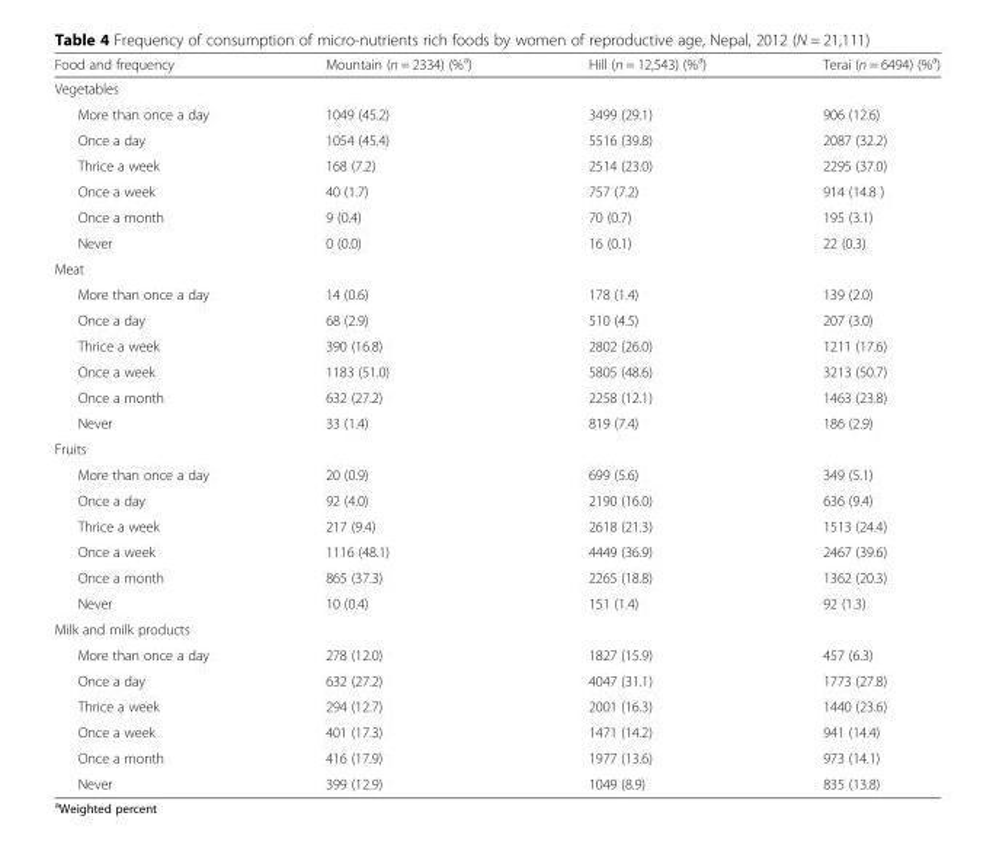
<table><thead><tr><td>Food and frequency</td><td>Mountain (n = 2334) (%<sup>a</sup>)</td><td>Hill (n = 12,543) (%<sup>a</sup>)</td><td>Terai (n = 6494) (%<sup>a</sup>)</td></tr></thead><tbody><tr><td colspan="4">Vegetables</td></tr><tr><td>More than once a day</td><td>1049 (45.2)</td><td>3499 (29.1)</td><td>906 (12.6)</td></tr><tr><td>Once a day</td><td>1054 (45.4)</td><td>5516 (39.8)</td><td>2087 (32.2)</td></tr><tr><td>Thrice a week</td><td>168 (7.2)</td><td>2514 (23.0)</td><td>2295 (37.0)</td></tr><tr><td>Once a week</td><td>40 (1.7)</td><td>757 (7.2)</td><td>914 (14.8 )</td></tr><tr><td>Once a month</td><td>9 (0.4)</td><td>70 (0.7)</td><td>195 (3.1)</td></tr><tr><td>Never</td><td>0 (0.0)</td><td>16 (0.1)</td><td>22 (0.3)</td></tr><tr><td colspan="4">Meat</td></tr><tr><td>More than once a day</td><td>14 (0.6)</td><td>178 (1.4)</td><td>139 (2.0)</td></tr><tr><td>Once a day</td><td>68 (2.9)</td><td>510 (4.5)</td><td>207 (3.0)</td></tr><tr><td>Thrice a week</td><td>390 (16.8)</td><td>2802 (26.0)</td><td>1211 (17.6)</td></tr><tr><td>Once a week</td><td>1183 (51.0)</td><td>5805 (48.6)</td><td>3213 (50.7)</td></tr><tr><td>Once a month</td><td>632 (27.2)</td><td>2258 (12.1)</td><td>1463 (23.8)</td></tr><tr><td>Never</td><td>33 (1.4)</td><td>819 (7.4)</td><td>186 (2.9)</td></tr><tr><td colspan="4">Fruits</td></tr><tr><td>More than once a day</td><td>20 (0.9)</td><td>699 (5.6)</td><td>349 (5.1)</td></tr><tr><td>Once a day</td><td>92 (4.0)</td><td>2190 (16.0)</td><td>636 (9.4)</td></tr><tr><td>Thrice a week</td><td>217 (9.4)</td><td>2618 (21.3)</td><td>1513 (24.4)</td></tr><tr><td>Once a week</td><td>1116 (48.1)</td><td>4449 (36.9)</td><td>2467 (39.6)</td></tr><tr><td>Once a month</td><td>865 (37.3)</td><td>2265 (18.8)</td><td>1362 (20.3)</td></tr><tr><td>Never</td><td>10 (0.4)</td><td>151 (1.4)</td><td>92 (1.3)</td></tr><tr><td colspan="4">Milk and milk products</td></tr><tr><td>More than once a day</td><td>278 (12.0)</td><td>1827 (15.9)</td><td>457 (6.3)</td></tr><tr><td>Once a day</td><td>632 (27.2)</td><td>4047 (31.1)</td><td>1773 (27.8)</td></tr><tr><td>Thrice a week</td><td>294 (12.7)</td><td>2001 (16.3)</td><td>1440 (23.6)</td></tr><tr><td>Once a week</td><td>401 (17.3)</td><td>1471 (14.2)</td><td>941 (14.4)</td></tr><tr><td>Once a month</td><td>416 (17.9)</td><td>1977 (13.6)</td><td>973 (14.1)</td></tr><tr><td>Never</td><td>399 (12.9)</td><td>1049 (8.9)</td><td>835 (13.8)</td></tr></tbody></table>